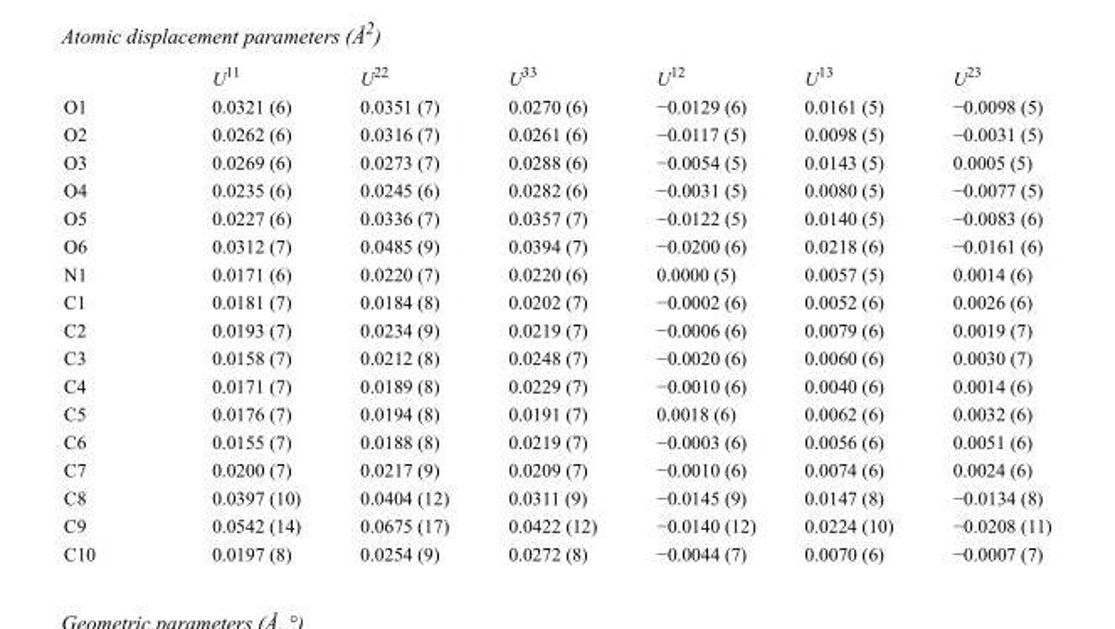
<table><thead><tr><td></td><td>U<sup>11</sup></td><td>U<sup>22</sup></td><td>U<sup>33</sup></td><td>U<sup>12</sup></td><td>U<sup>13</sup></td><td>U<sup>23</sup></td></tr></thead><tbody><tr><td>O1</td><td>0.0321 (6)</td><td>0.0351 (7)</td><td>0.0270 (6)</td><td>−0.0129 (6)</td><td>0.0161 (5)</td><td>−0.0098 (5)</td></tr><tr><td>O2</td><td>0.0262 (6)</td><td>0.0316 (7)</td><td>0.0261 (6)</td><td>−0.0117 (5)</td><td>0.0098 (5)</td><td>−0.0031 (5)</td></tr><tr><td>O3</td><td>0.0269 (6)</td><td>0.0273 (7)</td><td>0.0288 (6)</td><td>−0.0054 (5)</td><td>0.0143 (5)</td><td>0.0005 (5)</td></tr><tr><td>O4</td><td>0.0235 (6)</td><td>0.0245 (6)</td><td>0.0282 (6)</td><td>−0.0031 (5)</td><td>0.0080 (5)</td><td>−0.0077 (5)</td></tr><tr><td>O5</td><td>0.0227 (6)</td><td>0.0336 (7)</td><td>0.0357 (7)</td><td>−0.0122 (5)</td><td>0.0140 (5)</td><td>−0.0083 (6)</td></tr><tr><td>O6</td><td>0.0312 (7)</td><td>0.0485 (9)</td><td>0.0394 (7)</td><td>−0.0200 (6)</td><td>0.0218 (6)</td><td>−0.0161 (6)</td></tr><tr><td>N1</td><td>0.0171 (6)</td><td>0.0220 (7)</td><td>0.0220 (6)</td><td>0.0000 (5)</td><td>0.0057 (5)</td><td>0.0014 (6)</td></tr><tr><td>C1</td><td>0.0181 (7)</td><td>0.0184 (8)</td><td>0.0202 (7)</td><td>−0.0002 (6)</td><td>0.0052 (6)</td><td>0.0026 (6)</td></tr><tr><td>C2</td><td>0.0193 (7)</td><td>0.0234 (9)</td><td>0.0219 (7)</td><td>−0.0006 (6)</td><td>0.0079 (6)</td><td>0.0019 (7)</td></tr><tr><td>C3</td><td>0.0158 (7)</td><td>0.0212 (8)</td><td>0.0248 (7)</td><td>−0.0020 (6)</td><td>0.0060 (6)</td><td>0.0030 (7)</td></tr><tr><td>C4</td><td>0.0171 (7)</td><td>0.0189 (8)</td><td>0.0229 (7)</td><td>−0.0010 (6)</td><td>0.0040 (6)</td><td>0.0014 (6)</td></tr><tr><td>C5</td><td>0.0176 (7)</td><td>0.0194 (8)</td><td>0.0191 (7)</td><td>0.0018 (6)</td><td>0.0062 (6)</td><td>0.0032 (6)</td></tr><tr><td>C6</td><td>0.0155 (7)</td><td>0.0188 (8)</td><td>0.0219 (7)</td><td>−0.0003 (6)</td><td>0.0056 (6)</td><td>0.0051 (6)</td></tr><tr><td>C7</td><td>0.0200 (7)</td><td>0.0217 (9)</td><td>0.0209 (7)</td><td>−0.0010 (6)</td><td>0.0074 (6)</td><td>0.0024 (6)</td></tr><tr><td>C8</td><td>0.0397 (10)</td><td>0.0404 (12)</td><td>0.0311 (9)</td><td>−0.0145 (9)</td><td>0.0147 (8)</td><td>−0.0134 (8)</td></tr><tr><td>C9</td><td>0.0542 (14)</td><td>0.0675 (17)</td><td>0.0422 (12)</td><td>−0.0140 (12)</td><td>0.0224 (10)</td><td>−0.0208 (11)</td></tr><tr><td>C10</td><td>0.0197 (8)</td><td>0.0254 (9)</td><td>0.0272 (8)</td><td>−0.0044 (7)</td><td>0.0070 (6)</td><td>−0.0007 (7)</td></tr></tbody></table>